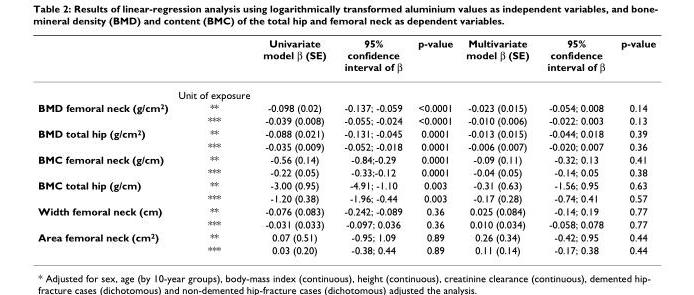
<table><thead><tr><td></td><td></td><td>Univariate model β (SE)</td><td>95% confidence interval of β</td><td>p-value</td><td>Multivariate model β (SE)</td><td>95% confidence interval of β</td><td>p-value</td></tr></thead><tbody><tr><td></td><td>Unit of exposure</td><td></td><td></td><td></td><td></td><td></td><td></td></tr><tr><td rowspan="2">BMD femoral neck (g/cm2)</td><td>**</td><td>-0.098 (0.02)</td><td>-0.137; -0.059</td><td>&lt;0.0001</td><td>-0.023 (0.015)</td><td>-0.054; 0.008</td><td>0.14</td></tr><tr><td>***</td><td>-0.039 (0.008)</td><td>-0.055; -0.024</td><td>&lt;0.0001</td><td>-0.010 (0.006)</td><td>-0.022: 0.003</td><td>0.13</td></tr><tr><td rowspan="2">BMD total hip (g/cm2)</td><td>**</td><td>-0.088 (0.021)</td><td>-0.131; -0.045</td><td>0.0001</td><td>-0.013 (0.015)</td><td>-0.044; 0.018</td><td>0.39</td></tr><tr><td>***</td><td>-0.035 (0.009)</td><td>-0.052; -0.018</td><td>0.0001</td><td>-0.006 (0.007)</td><td>-0.020; 0.007</td><td>0.36</td></tr><tr><td rowspan="2">BMC femoral neck (g/cm)</td><td>**</td><td>-0.56 (0.14)</td><td>-0.84;-0.29</td><td>0.0001</td><td>-0.09 (0.11)</td><td>-0.32; 0.13</td><td>0.41</td></tr><tr><td>***</td><td>-0.22 (0.05)</td><td>-0.33;-0.12</td><td>0.0001</td><td>-0.04 (0.05)</td><td>-0.14; 0.05</td><td>0.38</td></tr><tr><td rowspan="2">BMC total hip (g/cm)</td><td>**</td><td>-3.00 (0.95)</td><td>-4.91; -1.10</td><td>0.003</td><td>-0.31 (0.63)</td><td>-1.56; 0.95</td><td>0.63</td></tr><tr><td>***</td><td>-1.20 (0.38)</td><td>-1.96; -0.44</td><td>0.003</td><td>-0.17 (0.28)</td><td>-0.74; 0.41</td><td>0.57</td></tr><tr><td rowspan="2">Width femoral neck (cm)</td><td>**</td><td>-0.076 (0.083)</td><td>-0.242; -0.089</td><td>0.36</td><td>0.025 (0.084)</td><td>-0.14; 0.19</td><td>0.77</td></tr><tr><td>***</td><td>-0.031 (0.033)</td><td>-0.097; 0.036</td><td>0.36</td><td>0.010 (0.034)</td><td>-0.058; 0.078</td><td>0.77</td></tr><tr><td rowspan="2">Area femoral neck (cm2)</td><td>**</td><td>0.07 (0.51)</td><td>-0.95; 1.09</td><td>0.89</td><td>0.26 (0.34)</td><td>-0.42; 0.95</td><td>0.44</td></tr><tr><td>***</td><td>0.03 (0.20)</td><td>-0.38; 0.44</td><td>0.89</td><td>0.11 (0.14)</td><td>-0.17; 0.38</td><td>0.44</td></tr></tbody></table>